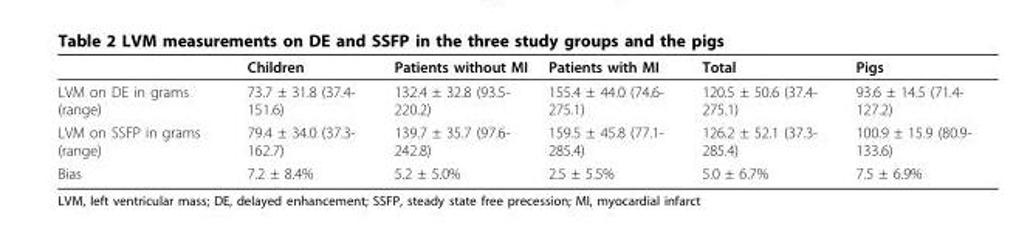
<table><thead><tr><td></td><td>Children</td><td>Patients without MI</td><td>Patients with MI</td><td>Total</td><td>Pigs</td></tr></thead><tbody><tr><td>LVM on DE in grams (range)</td><td>73.7 ± 31.8 (37.4- 151.6)</td><td>132.4 ± 32.8 (93.5- 220.2)</td><td>155.4 ± 44.0 (74.6- 275.1)</td><td>120.5 ± 50.6 (37.4- 275.1)</td><td>93.6 ± 14.5 (71.4- 127.2)</td></tr><tr><td>LVM on SSFP in grams (range)</td><td>79.4 ± 34.0 (37.3- 162.7)</td><td>139.7 ± 35.7 (97.6- 242.8)</td><td>159.5 ± 45.8 (77.1- 285.4)</td><td>126.2 ± 52.1 (37.3- 285.4)</td><td>100.9 ± 15.9 (80.9- 133.6)</td></tr><tr><td>Bias</td><td>7.2 ± 8.4%</td><td>5.2 ± 5.0%</td><td>2.5 ± 5.5%</td><td>5.0 ± 6.7%</td><td>7.5 ± 6.9%</td></tr></tbody></table>